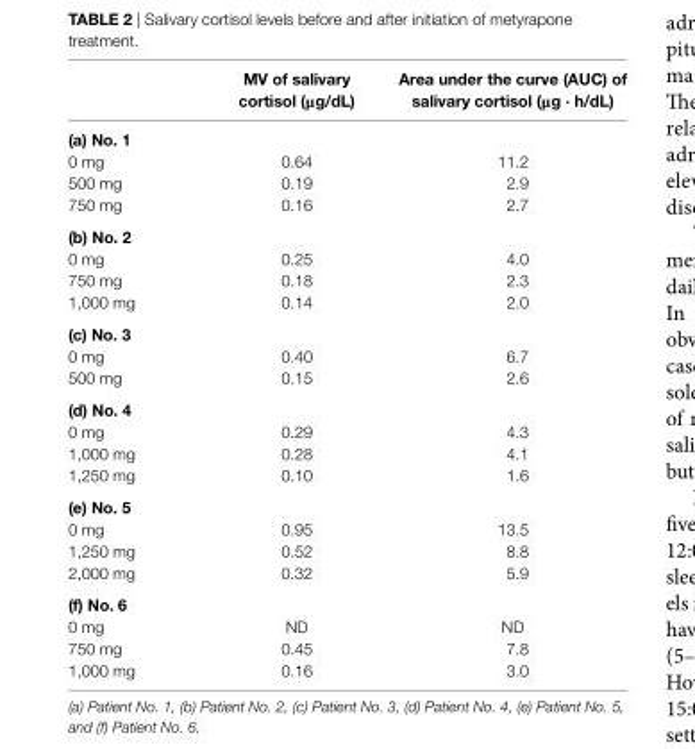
<table><thead><tr><td></td><td>MV of salivary cortisol (μg/dl)</td><td>area under the curve (aUc) of salivary cortisol (μg · h/dl)</td></tr></thead><tbody><tr><td colspan="3">(a) no. 1</td></tr><tr><td>0 mg</td><td>0.64</td><td>11.2</td></tr><tr><td>500 mg</td><td>0.19</td><td>2.9</td></tr><tr><td>750 mg</td><td>0.16</td><td>2.7</td></tr><tr><td colspan="3">(b) no. 2</td></tr><tr><td>0 mg</td><td>0.25</td><td>4.0</td></tr><tr><td>750 mg</td><td>0.18</td><td>2.3</td></tr><tr><td>1,000 mg</td><td>0.14</td><td>2.0</td></tr><tr><td colspan="3">(c) no. 3</td></tr><tr><td>0 mg</td><td>0.40</td><td>6.7</td></tr><tr><td>500 mg</td><td>0.15</td><td>2.6</td></tr><tr><td colspan="3">(d) no. 4</td></tr><tr><td>0 mg</td><td>0.29</td><td>4.3</td></tr><tr><td>1,000 mg</td><td>0.28</td><td>4.1</td></tr><tr><td>1,250 mg</td><td>0.10</td><td>1.6</td></tr><tr><td colspan="3">(e) no. 5</td></tr><tr><td>0 mg</td><td>0.95</td><td>13.5</td></tr><tr><td>1,250 mg</td><td>0.52</td><td>8.8</td></tr><tr><td>2,000 mg</td><td>0.32</td><td>5.9</td></tr><tr><td colspan="3">(f) no. 6</td></tr><tr><td>0 mg</td><td>ND</td><td>ND</td></tr><tr><td>750 mg</td><td>0.45</td><td>7.8</td></tr><tr><td>1,000 mg</td><td>0.16</td><td>3.0</td></tr></tbody></table>